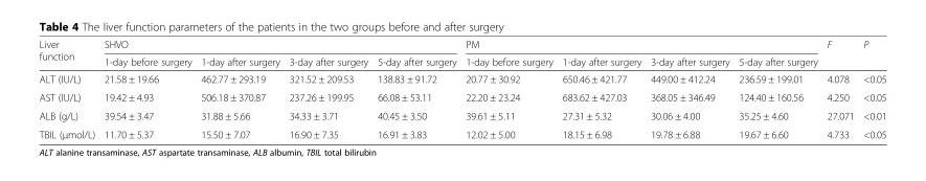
<table><thead><tr><td rowspan="2">Liver function</td><td colspan="4">SHVO</td><td colspan="4">PM</td><td rowspan="2">F</td><td rowspan="2">P</td></tr><tr><td>1-day before surgery</td><td>1-day after surgery</td><td>3-day after surgery</td><td>5-day after surgery</td><td>1-day before surgery</td><td>1-day after surgery</td><td>3-day after surgery</td><td>5-day after surgery</td></tr></thead><tbody><tr><td>ALT (IU/L)</td><td>21.58 ± 19.66</td><td>462.77 ± 293.19</td><td>321.52 ± 209.53</td><td>138.83 ± 91.72</td><td>20.77 ± 30.92</td><td>650.46 ± 421.77</td><td>449.00 ± 412.24</td><td>236.59 ± 199.01</td><td>4.078</td><td>&lt;0.05</td></tr><tr><td>AST (IU/L)</td><td>19.42 ± 4.93</td><td>506.18 ± 370.87</td><td>237.26 ± 199.95</td><td>66.08 ± 53.11</td><td>22.20 ± 23.24</td><td>683.62 ± 427.03</td><td>368.05 ± 346.49</td><td>124.40 ± 160.56</td><td>4.250</td><td>&lt;0.05</td></tr><tr><td>ALB (g/L)</td><td>39.54 ± 3.47</td><td>31.88 ± 5.66</td><td>34.33 ± 3.71</td><td>40.45 ± 3.50</td><td>39.61 ± 5.11</td><td>27.31 ± 5.32</td><td>30.06 ± 4.00</td><td>35.25 ± 4.60</td><td>27.071</td><td>&lt;0.01</td></tr><tr><td>TBIL (μmol/L)</td><td>11.70 ± 5.37</td><td>15.50 ± 7.07</td><td>16.90 ± 7.35</td><td>16.91 ± 3.83</td><td>12.02 ± 5.00</td><td>18.15 ± 6.98</td><td>19.78 ± 6.88</td><td>19.67 ± 6.60</td><td>4.733</td><td>&lt;0.05</td></tr></tbody></table>